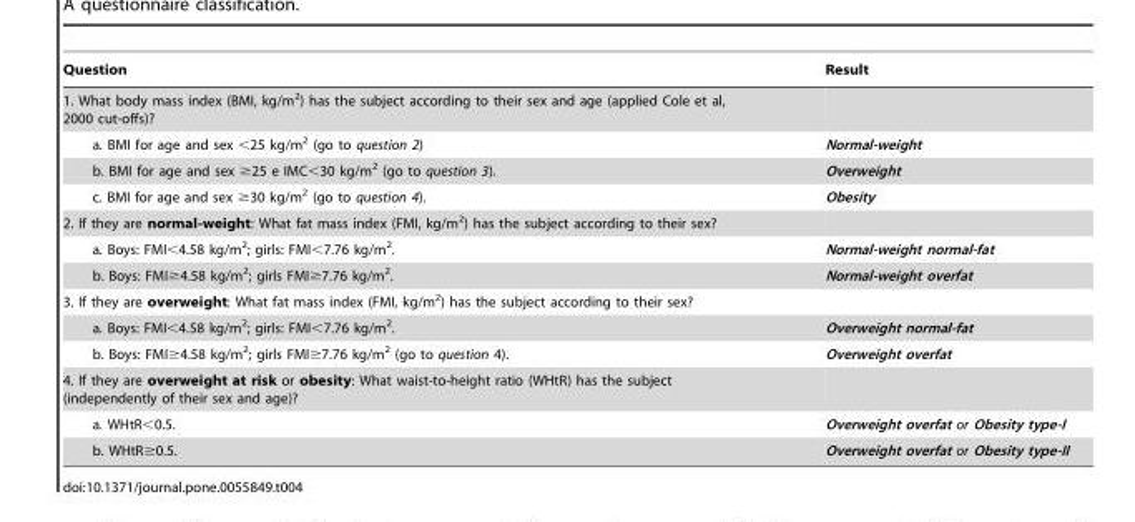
<table><thead><tr><td>Question</td><td>Result</td></tr></thead><tbody><tr><td colspan="2">1. What body mass index (BMI, kg/m<sup>2</sup>) has the subject according to their sex and age (applied Cole et al, 2000 cut-offs)?</td></tr><tr><td>a. BMI for age and sex &lt;25 kg/m<sup>2</sup> (go to question 2)</td><td>Normal-weight</td></tr><tr><td>b. BMI for age and sex ≥25 e IMC&lt;30 kg/m<sup>2</sup> (go to question 3).</td><td>Overweight</td></tr><tr><td>c. BMI for age and sex ≥30 kg/m<sup>2</sup> (go to question 4).</td><td>Obesity</td></tr><tr><td colspan="2">2. If they are normal-weight: What fat mass index (FMI, kg/m<sup>2</sup>) has the subject according to their sex?</td></tr><tr><td>a. Boys: FMI&lt;4.58 kg/m<sup>2</sup>; girls: FMI&lt;7.76 kg/m<sup>2</sup>.</td><td>Normal-weight normal-fat</td></tr><tr><td>b. Boys: FMI≥4.58 kg/m<sup>2</sup>; girls FMI≥7.76 kg/m<sup>2</sup>.</td><td>Normal-weight overfat</td></tr><tr><td colspan="2">3. If they are overweight: What fat mass index (FMI, kg/m<sup>2</sup>) has the subject according to their sex?</td></tr><tr><td>a. Boys: FMI&lt;4.58 kg/m<sup>2</sup>; girls: FMI&lt;7.76 kg/m<sup>2</sup>.</td><td>Overweight normal-fat</td></tr><tr><td>b. Boys: FMI≥4.58 kg/m<sup>2</sup>; girls FMI≥7.76 kg/m<sup>2</sup> (go to question 4).</td><td>Overweight overfat</td></tr><tr><td colspan="2">4. If they are overweight at risk or obesity: What waist-to-height ratio (WHtR) has the subject (independently of their sex and age)?</td></tr><tr><td>a. WHtR&lt;0.5.</td><td>Overweight overfat or Obesity type-I</td></tr><tr><td>b. WHtR≥0.5.</td><td>Overweight overfat or Obesity type-II</td></tr></tbody></table>